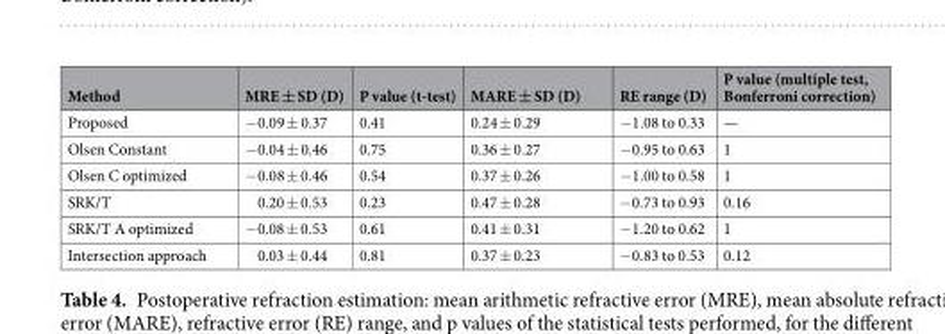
<table><thead><tr><td>Method</td><td>MRE ± SD (D)</td><td>P value (t-test)</td><td>MARE ± SD (D)</td><td>RE range (D)</td><td>P value (multiple test, Bonferroni correction)</td></tr></thead><tbody><tr><td>Proposed</td><td>−0.09 ± 0.37</td><td>0.41</td><td>0.24 ± 0.29</td><td>−1.08 to 0.33</td><td>—</td></tr><tr><td>Olsen Constant</td><td>−0.04 ± 0.46</td><td>0.75</td><td>0.36 ± 0.27</td><td>−0.95 to 0.63</td><td>1</td></tr><tr><td>Olsen C optimized</td><td>−0.08 ± 0.46</td><td>0.54</td><td>0.37 ± 0.26</td><td>−1.00 to 0.58</td><td>1</td></tr><tr><td>SRK/T</td><td>0.20 ± 0.53</td><td>0.23</td><td>0.47 ± 0.28</td><td>−0.73 to 0.93</td><td>0.16</td></tr><tr><td>SRK/T A optimized</td><td>−0.08 ± 0.53</td><td>0.61</td><td>0.41 ± 0.31</td><td>−1.20 to 0.62</td><td>1</td></tr><tr><td>Intersection approach</td><td>0.03 ± 0.44</td><td>0.81</td><td>0.37 ± 0.23</td><td>−0.83 to 0.53</td><td>0.12</td></tr></tbody></table>